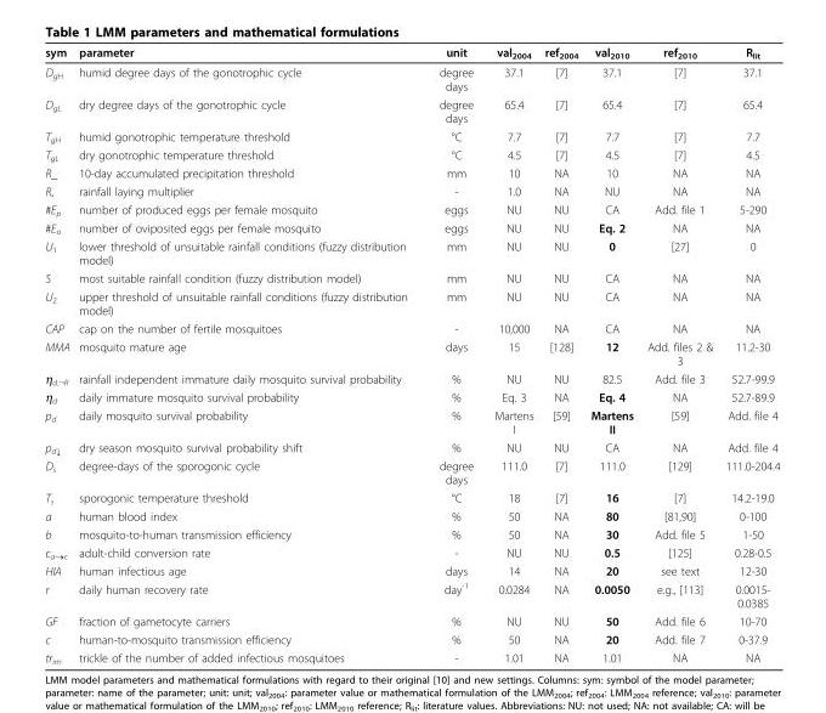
<table><thead><tr><td>sym</td><td>parameter</td><td>unit</td><td>val<sub>2004</sub></td><td>ref<sub>2004</sub></td><td>val<sub>2010</sub></td><td>ref<sub>2010</sub></td><td>R<sub>lit</sub></td></tr></thead><tbody><tr><td>D<sub>gH</sub></td><td>humid degree days of the gonotrophic cycle</td><td>degree days</td><td>37.1</td><td>[7]</td><td>37.1</td><td>[7]</td><td>37.1</td></tr><tr><td>D<sub>gL</sub></td><td>dry degree days of the gonotrophic cycle</td><td>degree days</td><td>65.4</td><td>[7]</td><td>65.4</td><td>[7]</td><td>65.4</td></tr><tr><td>T<sub>gH</sub></td><td>humid gonotrophic temperature threshold</td><td>°C</td><td>7.7</td><td>[7]</td><td>7.7</td><td>[7]</td><td>7.7</td></tr><tr><td>T<sub>gL</sub></td><td>dry gonotrophic temperature threshold</td><td>°C</td><td>4.5</td><td>[7]</td><td>4.5</td><td>[7]</td><td>4.5</td></tr><tr><td>R_</td><td>10-day accumulated precipitation threshold</td><td>mm</td><td>10</td><td>NA</td><td>10</td><td>NA</td><td>NA</td></tr><tr><td>R<sub>•</sub></td><td>rainfall laying multiplier</td><td>-</td><td>1.0</td><td>NA</td><td>NU</td><td>NA</td><td>NA</td></tr><tr><td>#E<sub>p</sub></td><td>number of produced eggs per female mosquito</td><td>eggs</td><td>NU</td><td>NU</td><td>CA</td><td>Add. file 1</td><td>5-290</td></tr><tr><td>#E<sub>o</sub></td><td>number of oviposited eggs per female mosquito</td><td>eggs</td><td>NU</td><td>NU</td><td>Eq. 2</td><td>NA</td><td>NA</td></tr><tr><td>U<sub>1</sub></td><td>lower threshold of unsuitable rainfall conditions (fuzzy distribution model)</td><td>mm</td><td>NU</td><td>NU</td><td>0</td><td>[27]</td><td>0</td></tr><tr><td>S</td><td>most suitable rainfall condition (fuzzy distribution model)</td><td>mm</td><td>NU</td><td>NU</td><td>CA</td><td>NA</td><td>NA</td></tr><tr><td>U<sub>2</sub></td><td>upper threshold of unsuitable rainfall conditions (fuzzy distribution model)</td><td>mm</td><td>NU</td><td>NU</td><td>CA</td><td>NA</td><td>NA</td></tr><tr><td>CAP</td><td>cap on the number of fertile mosquitoes</td><td>-</td><td>10,000</td><td>NA</td><td>CA</td><td>NA</td><td>NA</td></tr><tr><td>MMA</td><td>mosquito mature age</td><td>days</td><td>15</td><td>[128]</td><td>12</td><td>Add. files 2 &amp; 3</td><td>11.2-30</td></tr><tr><td>η<sub>d,¬R</sub></td><td>rainfall independent immature daily mosquito survival probability</td><td>%</td><td>NU</td><td>NU</td><td>82.5</td><td>Add. file 3</td><td>52.7-99.9</td></tr><tr><td>η<sub>d</sub></td><td>daily immature mosquito survival probability</td><td>%</td><td>Eq. 3</td><td>NA</td><td>Eq. 4</td><td>NA</td><td>52.7-89.9</td></tr><tr><td>p<sub>d</sub></td><td>daily mosquito survival probability</td><td>%</td><td>Martens I</td><td>[59]</td><td>Martens II</td><td>[59]</td><td>Add. file 4</td></tr><tr><td>p<sub>d↓</sub></td><td>dry season mosquito survival probability shift</td><td>%</td><td>NU</td><td>NU</td><td>CA</td><td>NA</td><td>Add. file 4</td></tr><tr><td>D<sub>s</sub></td><td>degree-days of the sporogonic cycle</td><td>degree days</td><td>111.0</td><td>[7]</td><td>111.0</td><td>[129]</td><td>111.0-204.4</td></tr><tr><td>T<sub>s</sub></td><td>sporogonic temperature threshold</td><td>°C</td><td>18</td><td>[7]</td><td>16</td><td>[7]</td><td>14.2-19.0</td></tr><tr><td>a</td><td>human blood index</td><td>%</td><td>50</td><td>NA</td><td>80</td><td>[81,90]</td><td>0-100</td></tr><tr><td>b</td><td>mosquito-to-human transmission efficiency</td><td>%</td><td>50</td><td>NA</td><td>30</td><td>Add. file 5</td><td>1-50</td></tr><tr><td>c<sub>a→c</sub></td><td>adult-child conversion rate</td><td>-</td><td>NU</td><td>NU</td><td>0.5</td><td>[125]</td><td>0.28-0.5</td></tr><tr><td>HIA</td><td>human infectious age</td><td>days</td><td>14</td><td>NA</td><td>20</td><td>see text</td><td>12-30</td></tr><tr><td>r</td><td>daily human recovery rate</td><td>day<sup>-1</sup></td><td>0.0284</td><td>NA</td><td>0.0050</td><td>e.g., [113]</td><td>0.0015- 0.0385</td></tr><tr><td>GF</td><td>fraction of gametocyte carriers</td><td>%</td><td>NU</td><td>NU</td><td>50</td><td>Add. file 6</td><td>10-70</td></tr><tr><td>c</td><td>human-to-mosquito transmission efficiency</td><td>%</td><td>50</td><td>NA</td><td>20</td><td>Add. file 7</td><td>0-37.9</td></tr><tr><td>tr<sub>im</sub></td><td>trickle of the number of added infectious mosquitoes</td><td>-</td><td>1.01</td><td>NA</td><td>1.01</td><td>NA</td><td>NA</td></tr></tbody></table>